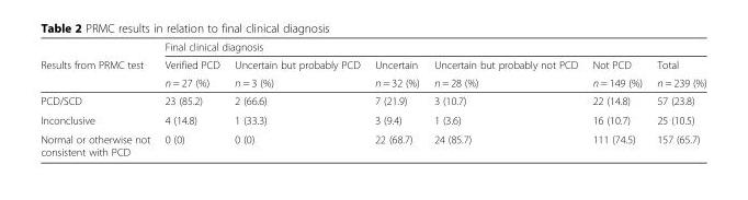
<table><thead><tr><td rowspan="3">Results from PRMC test</td><td colspan="6">Final clinical diagnosis</td></tr><tr><td rowspan="2">Verified PCD n = 27 (%)</td><td rowspan="2">Uncertain but probably PCD n = 3 (%)</td><td rowspan="2">Uncertain n = 32 (%)</td><td rowspan="2">Uncertain but probably not PCD n = 28 (%)</td><td rowspan="2">Not PCD n = 149 (%)</td><td rowspan="2">Total n = 239 (%)</td></tr><tr></tr></thead><tbody><tr><td>PCD/SCD</td><td>23 (85.2)</td><td>2 (66.6)</td><td>7 (21.9)</td><td>3 (10.7)</td><td>22 (14.8)</td><td>57 (23.8)</td></tr><tr><td>Inconclusive</td><td>4 (14.8)</td><td>1 (33.3)</td><td>3 (9.4)</td><td>1 (3.6)</td><td>16 (10.7)</td><td>25 (10.5)</td></tr><tr><td>Normal or otherwise not consistent with PCD</td><td>0 (0)</td><td>0 (0)</td><td>22 (68.7)</td><td>24 (85.7)</td><td>111 (74.5)</td><td>157 (65.7)</td></tr></tbody></table>